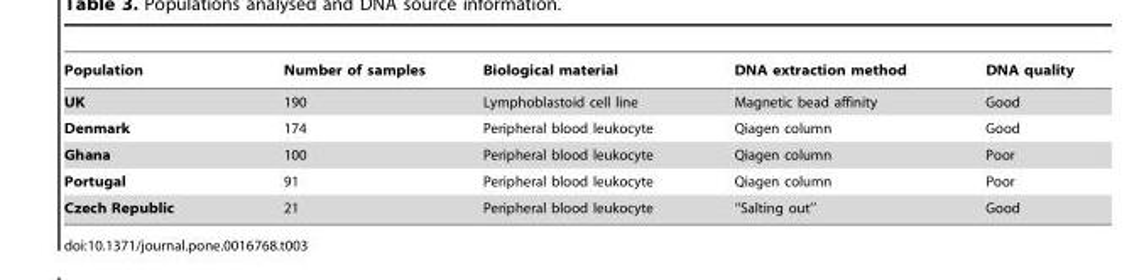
<table><thead><tr><td>Population</td><td>Number of samples</td><td>Biological material</td><td>DNA extraction method</td><td>DNA quality</td></tr></thead><tbody><tr><td>UK</td><td>190</td><td>Lymphoblastoid cell line</td><td>Magnetic bead affinity</td><td>Good</td></tr><tr><td>Denmark</td><td>174</td><td>Peripheral blood leukocyte</td><td>Qiagen column</td><td>Good</td></tr><tr><td>Ghana</td><td>100</td><td>Peripheral blood leukocyte</td><td>Qiagen column</td><td>Poor</td></tr><tr><td>Portugal</td><td>91</td><td>Peripheral blood leukocyte</td><td>Qiagen column</td><td>Poor</td></tr><tr><td>Czech Republic</td><td>21</td><td>Peripheral blood leukocyte</td><td>‘‘Salting out’’</td><td>Good</td></tr></tbody></table>